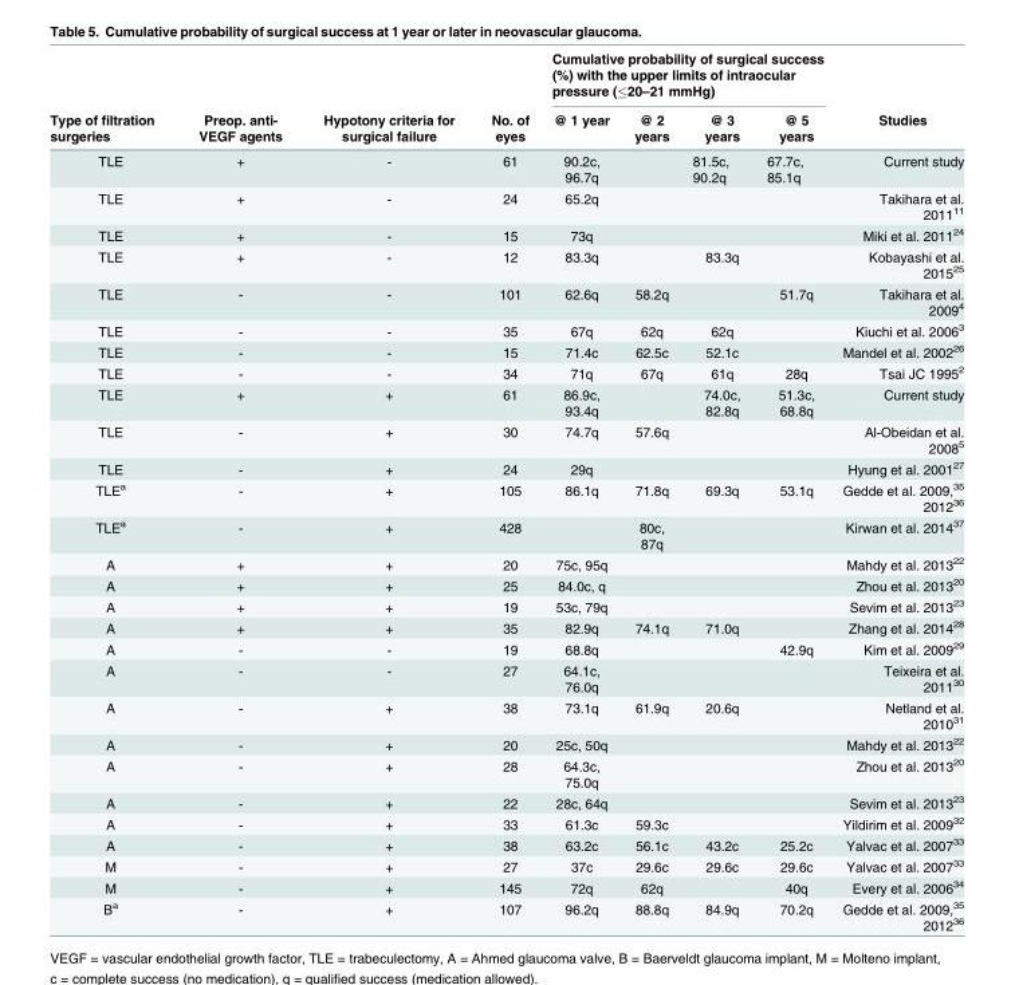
<table><thead><tr><td rowspan="2">Type of filtration surgeries</td><td rowspan="2">Preop. anti- VEGF agents</td><td rowspan="2">Hypotony criteria for surgical failure</td><td rowspan="2">No. of eyes</td><td colspan="4">Cumulative probability of surgical success (%) with the upper limits of intraocular pressure (≤20–21 mmHg)</td><td rowspan="2">Studies</td></tr><tr><td>@ 1 year</td><td>@ 2 years</td><td>@ 3 years</td><td>@ 5 years</td></tr></thead><tbody><tr><td>TLE</td><td>+</td><td>-</td><td>61</td><td>90.2c, 96.7q</td><td></td><td>81.5c, 90.2q</td><td>67.7c, 85.1q</td><td>Current study</td></tr><tr><td>TLE</td><td>+</td><td>-</td><td>24</td><td>65.2q</td><td></td><td></td><td></td><td>Takihara et al. 2011<sup>11</sup></td></tr><tr><td>TLE</td><td>+</td><td>-</td><td>15</td><td>73q</td><td></td><td></td><td></td><td>Miki et al. 2011<sup>24</sup></td></tr><tr><td>TLE</td><td>+</td><td>-</td><td>12</td><td>83.3q</td><td></td><td>83.3q</td><td></td><td>Kobayashi et al. 2015<sup>25</sup></td></tr><tr><td>TLE</td><td>-</td><td>-</td><td>101</td><td>62.6q</td><td>58.2q</td><td></td><td>51.7q</td><td>Takihara et al. 2009<sup>4</sup></td></tr><tr><td>TLE</td><td>-</td><td>-</td><td>35</td><td>67q</td><td>62q</td><td>62q</td><td></td><td>Kiuchi et al. 2006<sup>3</sup></td></tr><tr><td>TLE</td><td>-</td><td>-</td><td>15</td><td>71.4c</td><td>62.5c</td><td>52.1c</td><td></td><td>Mandel et al. 2002<sup>26</sup></td></tr><tr><td>TLE</td><td>-</td><td>-</td><td>34</td><td>71q</td><td>67q</td><td>61q</td><td>28q</td><td>Tsai JC 1995<sup>2</sup></td></tr><tr><td>TLE</td><td>+</td><td>+</td><td>61</td><td>86.9c, 93.4q</td><td></td><td>74.0c, 82.8q</td><td>51.3c, 68.8q</td><td>Current study</td></tr><tr><td>TLE</td><td>-</td><td>+</td><td>30</td><td>74.7q</td><td>57.6q</td><td></td><td></td><td>Al-Obeidan et al. 2008<sup>5</sup></td></tr><tr><td>TLE</td><td>-</td><td>+</td><td>24</td><td>29q</td><td></td><td></td><td></td><td>Hyung et al. 2001<sup>27</sup></td></tr><tr><td>TLE<sup>a</sup></td><td>-</td><td>+</td><td>105</td><td>86.1q</td><td>71.8q</td><td>69.3q</td><td>53.1q</td><td>Gedde et al. 2009,<sup>35</sup> 2012<sup>36</sup></td></tr><tr><td>TLE<sup>a</sup></td><td>-</td><td>+</td><td>428</td><td></td><td>80c, 87q</td><td></td><td></td><td>Kirwan et al. 2014<sup>37</sup></td></tr><tr><td>A</td><td>+</td><td>+</td><td>20</td><td>75c, 95q</td><td></td><td></td><td></td><td>Mahdy et al. 2013<sup>22</sup></td></tr><tr><td>A</td><td>+</td><td>+</td><td>25</td><td>84.0c, q</td><td></td><td></td><td></td><td>Zhou et al. 2013<sup>20</sup></td></tr><tr><td>A</td><td>+</td><td>+</td><td>19</td><td>53c, 79q</td><td></td><td></td><td></td><td>Sevim et al. 2013<sup>23</sup></td></tr><tr><td>A</td><td>+</td><td>+</td><td>35</td><td>82.9q</td><td>74.1q</td><td>71.0q</td><td></td><td>Zhang et al. 2014<sup>28</sup></td></tr><tr><td>A</td><td>-</td><td>-</td><td>19</td><td>68.8q</td><td></td><td></td><td>42.9q</td><td>Kim et al. 2009<sup>29</sup></td></tr><tr><td>A</td><td>-</td><td>-</td><td>27</td><td>64.1c, 76.0q</td><td></td><td></td><td></td><td>Teixeira et al. 2011<sup>30</sup></td></tr><tr><td>A</td><td>-</td><td>+</td><td>38</td><td>73.1q</td><td>61.9q</td><td>20.6q</td><td></td><td>Netland et al. 2010<sup>31</sup></td></tr><tr><td>A</td><td>-</td><td>+</td><td>20</td><td>25c, 50q</td><td></td><td></td><td></td><td>Mahdy et al. 2013<sup>22</sup></td></tr><tr><td>A</td><td>-</td><td>+</td><td>28</td><td>64.3c, 75.0q</td><td></td><td></td><td></td><td>Zhou et al. 2013<sup>20</sup></td></tr><tr><td>A</td><td>-</td><td>+</td><td>22</td><td>28c, 64q</td><td></td><td></td><td></td><td>Sevim et al. 2013<sup>23</sup></td></tr><tr><td>A</td><td>-</td><td>+</td><td>33</td><td>61.3c</td><td>59.3c</td><td></td><td></td><td>Yildirim et al. 2009<sup>32</sup></td></tr><tr><td>A</td><td>-</td><td>+</td><td>38</td><td>63.2c</td><td>56.1c</td><td>43.2c</td><td>25.2c</td><td>Yalvac et al. 2007<sup>33</sup></td></tr><tr><td>M</td><td>-</td><td>+</td><td>27</td><td>37c</td><td>29.6c</td><td>29.6c</td><td>29.6c</td><td>Yalvac et al. 2007<sup>33</sup></td></tr><tr><td>M</td><td>-</td><td>+</td><td>145</td><td>72q</td><td>62q</td><td></td><td>40q</td><td>Every et al. 2006<sup>34</sup></td></tr><tr><td>B<sup>a</sup></td><td>-</td><td>+</td><td>107</td><td>96.2q</td><td>88.8q</td><td>84.9q</td><td>70.2q</td><td>Gedde et al. 2009,<sup>35</sup> 2012<sup>36</sup></td></tr></tbody></table>